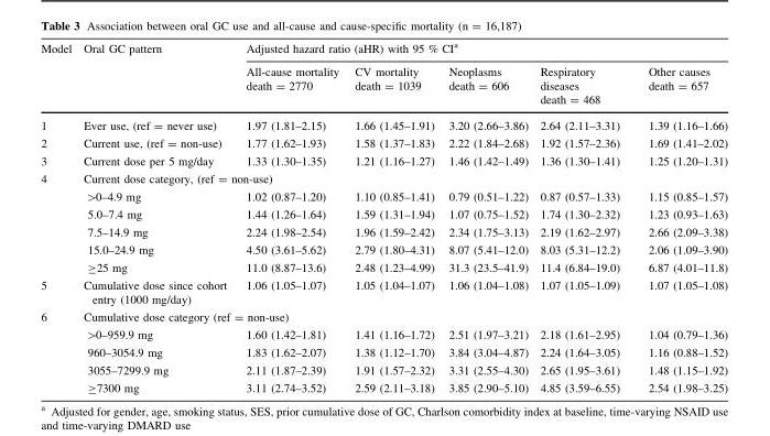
<table><thead><tr><td rowspan="2">Model</td><td rowspan="2">Oral GC pattern</td><td colspan="5">Adjusted hazard ratio (aHR) with 95 % CI<sup>a</sup></td></tr><tr><td>All-cause mortality death = 2770</td><td>CV mortality death = 1039</td><td>Neoplasms death = 606</td><td>Respiratory diseases death = 468</td><td>Other causes death = 657</td></tr></thead><tbody><tr><td>1</td><td>Ever use, (ref = never use)</td><td>1.97 (1.81–2.15)</td><td>1.66 (1.45–1.91)</td><td>3.20 (2.66–3.86)</td><td>2.64 (2.11–3.31)</td><td>1.39 (1.16–1.66)</td></tr><tr><td>2</td><td>Current use, (ref = non-use)</td><td>1.77 (1.62–1.93)</td><td>1.58 (1.37–1.83)</td><td>2.22 (1.84–2.68)</td><td>1.92 (1.57–2.36)</td><td>1.69 (1.41–2.02)</td></tr><tr><td>3</td><td>Current dose per 5 mg/day</td><td>1.33 (1.30–1.35)</td><td>1.21 (1.16–1.27)</td><td>1.46 (1.42–1.49)</td><td>1.36 (1.30–1.41)</td><td>1.25 (1.20–1.31)</td></tr><tr><td rowspan="6">4</td><td colspan="6">Current dose category, (ref = non-use)</td></tr><tr><td>&gt;0–4.9 mg</td><td>1.02 (0.87–1.20)</td><td>1.10 (0.85–1.41)</td><td>0.79 (0.51–1.22)</td><td>0.87 (0.57–1.33)</td><td>1.15 (0.85–1.57)</td></tr><tr><td>5.0–7.4 mg</td><td>1.44 (1.26–1.64)</td><td>1.59 (1.31–1.94)</td><td>1.07 (0.75–1.52)</td><td>1.74 (1.30–2.32)</td><td>1.23 (0.93–1.63)</td></tr><tr><td>7.5–14.9 mg</td><td>2.24 (1.98–2.54)</td><td>1.96 (1.59–2.42)</td><td>2.34 (1.75–3.13)</td><td>2.19 (1.62–2.97)</td><td>2.66 (2.09–3.38)</td></tr><tr><td>15.0–24.9 mg</td><td>4.50 (3.61–5.62)</td><td>2.79 (1.80–4.31)</td><td>8.07 (5.41–12.0)</td><td>8.03 (5.31–12.2)</td><td>2.06 (1.09–3.90)</td></tr><tr><td>≥25 mg</td><td>11.0 (8.87–13.6)</td><td>2.48 (1.23–4.99)</td><td>31.3 (23.5–41.9)</td><td>11.4 (6.84–19.0)</td><td>6.87 (4.01–11.8)</td></tr><tr><td>5</td><td>Cumulative dose since cohort entry (1000 mg/day)</td><td>1.06 (1.05–1.07)</td><td>1.05 (1.04–1.07)</td><td>1.06 (1.04–1.08)</td><td>1.07 (1.05–1.09)</td><td>1.07 (1.05–1.08)</td></tr><tr><td rowspan="5">6</td><td colspan="6">Cumulative dose category (ref = non-use)</td></tr><tr><td>&gt;0–959.9 mg</td><td>1.60 (1.42–1.81)</td><td>1.41 (1.16–1.72)</td><td>2.51 (1.97–3.21)</td><td>2.18 (1.61–2.95)</td><td>1.04 (0.79–1.36)</td></tr><tr><td>960–3054.9 mg</td><td>1.83 (1.62–2.07)</td><td>1.38 (1.12–1.70)</td><td>3.84 (3.04–4.87)</td><td>2.24 (1.64–3.05)</td><td>1.16 (0.88–1.52)</td></tr><tr><td>3055–7299.9 mg</td><td>2.11 (1.87–2.39)</td><td>1.91 (1.57–2.32)</td><td>3.31 (2.55–4.30)</td><td>2.65 (1.95–3.61)</td><td>1.48 (1.15–1.92)</td></tr><tr><td>≥7300 mg</td><td>3.11 (2.74–3.52)</td><td>2.59 (2.11–3.18)</td><td>3.85 (2.90–5.10)</td><td>4.85 (3.59–6.55)</td><td>2.54 (1.98–3.25)</td></tr></tbody></table>